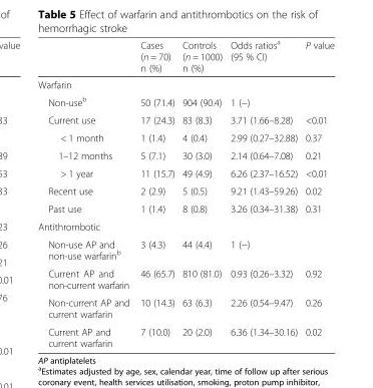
<table><thead><tr><td></td><td>Cases (n = 70) n (%)</td><td>Controls (n = 1000) n (%)</td><td>Odds ratios<sup>a</sup> (95 % CI)</td><td>P value</td></tr></thead><tbody><tr><td colspan="5">Warfarin</td></tr><tr><td>Non-use<sup>b</sup></td><td>50 (71.4)</td><td>904 (90.4)</td><td>1 (−)</td><td></td></tr><tr><td>Current use</td><td>17 (24.3)</td><td>83 (8.3)</td><td>3.71 (1.66–8.28)</td><td>&lt;0.01</td></tr><tr><td>&lt; 1 month</td><td>1 (1.4)</td><td>4 (0.4)</td><td>2.99 (0.27–32.88)</td><td>0.37</td></tr><tr><td>1–12 months</td><td>5 (7.1)</td><td>30 (3.0)</td><td>2.14 (0.64–7.08)</td><td>0.21</td></tr><tr><td>&gt; 1 year</td><td>11 (15.7)</td><td>49 (4.9)</td><td>6.26 (2.37–16.52)</td><td>&lt;0.01</td></tr><tr><td>Recent use</td><td>2 (2.9)</td><td>5 (0.5)</td><td>9.21 (1.43–59.26)</td><td>0.02</td></tr><tr><td>Past use</td><td>1 (1.4)</td><td>8 (0.8)</td><td>3.26 (0.34–31.38)</td><td>0.31</td></tr><tr><td colspan="5">Antithrombotic</td></tr><tr><td>Non-use AP and non-use warfarin<sup>b</sup></td><td>3 (4.3)</td><td>44 (4.4)</td><td>1 (−)</td><td></td></tr><tr><td>Current AP and non-current warfarin</td><td>46 (65.7)</td><td>810 (81.0)</td><td>0.93 (0.26–3.32)</td><td>0.92</td></tr><tr><td>Non-current AP and current warfarin</td><td>10 (14.3)</td><td>63 (6.3)</td><td>2.26 (0.54–9.47)</td><td>0.26</td></tr><tr><td>Current AP and current warfarin</td><td>7 (10.0)</td><td>20 (2.0)</td><td>6.36 (1.34–30.16)</td><td>0.02</td></tr></tbody></table>